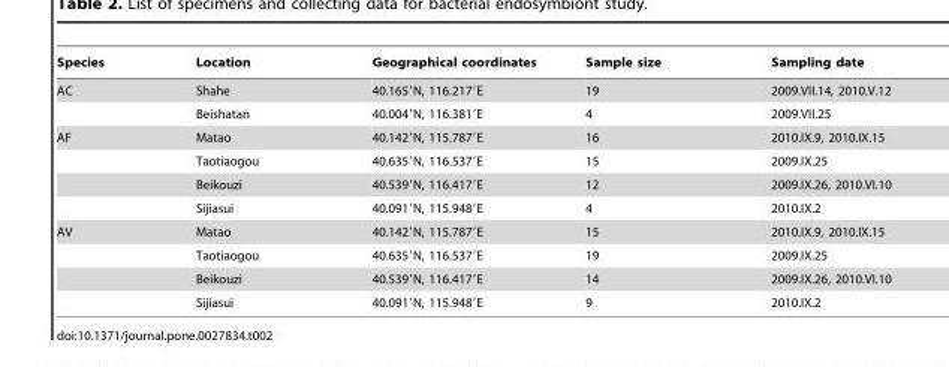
<table><thead><tr><td>Species</td><td>Location</td><td>Geographical coordinates</td><td>Sample size</td><td>Sampling date</td></tr></thead><tbody><tr><td rowspan="2">AC</td><td>Shahe</td><td>40.165′N, 116.217′E</td><td>19</td><td>2009.VII.14, 2010.V.12</td></tr><tr><td>Beishatan</td><td>40.004′N, 116.381′E</td><td>4</td><td>2009.VII.25</td></tr><tr><td rowspan="4">AF</td><td>Matao</td><td>40.142′N, 115.787′E</td><td>16</td><td>2010.IX.9, 2010.IX.15</td></tr><tr><td>Taotiaogou</td><td>40.635′N, 116.537′E</td><td>15</td><td>2009.IX.25</td></tr><tr><td>Beikouzi</td><td>40.539′N, 116.417′E</td><td>12</td><td>2009.IX.26, 2010.VI.10</td></tr><tr><td>Sijiasui</td><td>40.091′N, 115.948′E</td><td>4</td><td>2010.IX.2</td></tr><tr><td rowspan="4">AV</td><td>Matao</td><td>40.142′N, 115.787′E</td><td>15</td><td>2010.IX.9, 2010.IX.15</td></tr><tr><td>Taotiaogou</td><td>40.635′N, 116.537′E</td><td>19</td><td>2009.IX.25</td></tr><tr><td>Beikouzi</td><td>40.539′N, 116.417′E</td><td>14</td><td>2009.IX.26, 2010.VI.10</td></tr><tr><td>Sijiasui</td><td>40.091′N, 115.948′E</td><td>9</td><td>2010.IX.2</td></tr></tbody></table>